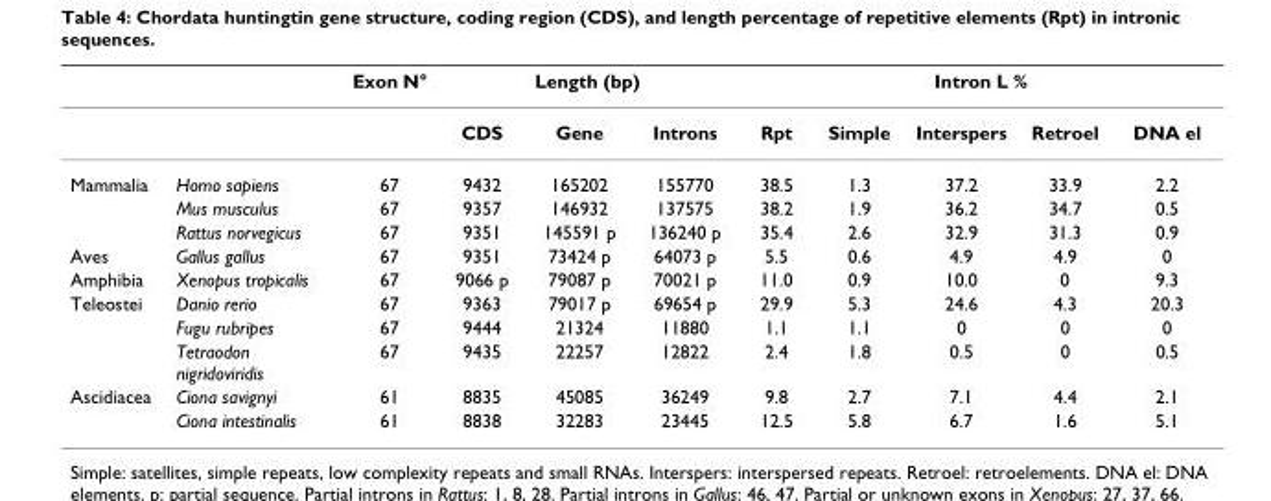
<table><thead><tr><td rowspan="2"></td><td rowspan="2"></td><td rowspan="2">Exon N°</td><td colspan="3">Length (bp)</td><td colspan="5">Intron L %</td></tr><tr><td>CDS</td><td>Gene</td><td>Introns</td><td>Rpt</td><td>Simple</td><td>Interspers</td><td>Retroel</td><td>DNA el</td></tr></thead><tbody><tr><td rowspan="3">Mammalia</td><td>Homo sapiens</td><td>67</td><td>9432</td><td>165202</td><td>155770</td><td>38.5</td><td>1.3</td><td>37.2</td><td>33.9</td><td>2.2</td></tr><tr><td>Mus musculus</td><td>67</td><td>9357</td><td>146932</td><td>137575</td><td>38.2</td><td>1.9</td><td>36.2</td><td>34.7</td><td>0.5</td></tr><tr><td>Rattus norvegicus</td><td>67</td><td>9351</td><td>145591 p</td><td>136240 p</td><td>35.4</td><td>2.6</td><td>32.9</td><td>31.3</td><td>0.9</td></tr><tr><td>Aves</td><td>Gallus gallus</td><td>67</td><td>9351</td><td>73424 p</td><td>64073 p</td><td>5.5</td><td>0.6</td><td>4.9</td><td>4.9</td><td>0</td></tr><tr><td>Amphibia</td><td>Xenopus tropicalis</td><td>67</td><td>9066 p</td><td>79087 p</td><td>70021 p</td><td>11.0</td><td>0.9</td><td>10.0</td><td>0</td><td>9.3</td></tr><tr><td rowspan="3">Teleostei</td><td>Danio rerio</td><td>67</td><td>9363</td><td>79017 p</td><td>69654 p</td><td>29.9</td><td>5.3</td><td>24.6</td><td>4.3</td><td>20.3</td></tr><tr><td>Fugu rubripes</td><td>67</td><td>9444</td><td>21324</td><td>11880</td><td>1.1</td><td>1.1</td><td>0</td><td>0</td><td>0</td></tr><tr><td>Tetraodon nigridoviridis</td><td>67</td><td>9435</td><td>22257</td><td>12822</td><td>2.4</td><td>1.8</td><td>0.5</td><td>0</td><td>0.5</td></tr><tr><td rowspan="2">Ascidiacea</td><td>Ciona savignyi</td><td>61</td><td>8835</td><td>45085</td><td>36249</td><td>9.8</td><td>2.7</td><td>7.1</td><td>4.4</td><td>2.1</td></tr><tr><td>Ciona intestinalis</td><td>61</td><td>8838</td><td>32283</td><td>23445</td><td>12.5</td><td>5.8</td><td>6.7</td><td>1.6</td><td>5.1</td></tr></tbody></table>